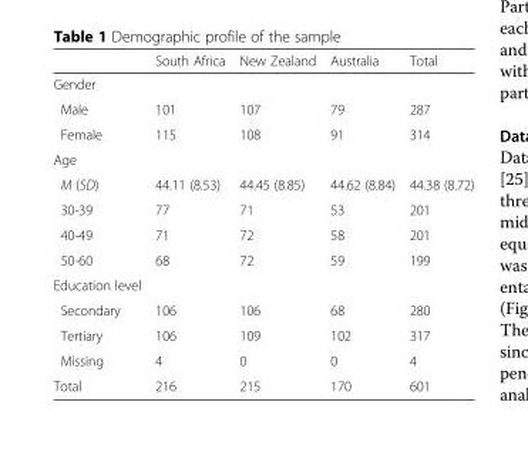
<table><thead><tr><td></td><td>South Africa</td><td>New Zealand</td><td>Australia</td><td>Total</td></tr></thead><tbody><tr><td colspan="5">Gender</td></tr><tr><td>Male</td><td>101</td><td>107</td><td>79</td><td>287</td></tr><tr><td>Female</td><td>115</td><td>108</td><td>91</td><td>314</td></tr><tr><td colspan="5">Age</td></tr><tr><td>M (SD)</td><td>44.11 (8.53)</td><td>44.45 (8.85)</td><td>44.62 (8.84)</td><td>44.38 (8.72)</td></tr><tr><td>30-39</td><td>77</td><td>71</td><td>53</td><td>201</td></tr><tr><td>40-49</td><td>71</td><td>72</td><td>58</td><td>201</td></tr><tr><td>50-60</td><td>68</td><td>72</td><td>59</td><td>199</td></tr><tr><td colspan="5">Education level</td></tr><tr><td>Secondary</td><td>106</td><td>106</td><td>68</td><td>280</td></tr><tr><td>Tertiary</td><td>106</td><td>109</td><td>102</td><td>317</td></tr><tr><td>Missing</td><td>4</td><td>0</td><td>0</td><td>4</td></tr><tr><td>Total</td><td>216</td><td>215</td><td>170</td><td>601</td></tr></tbody></table>